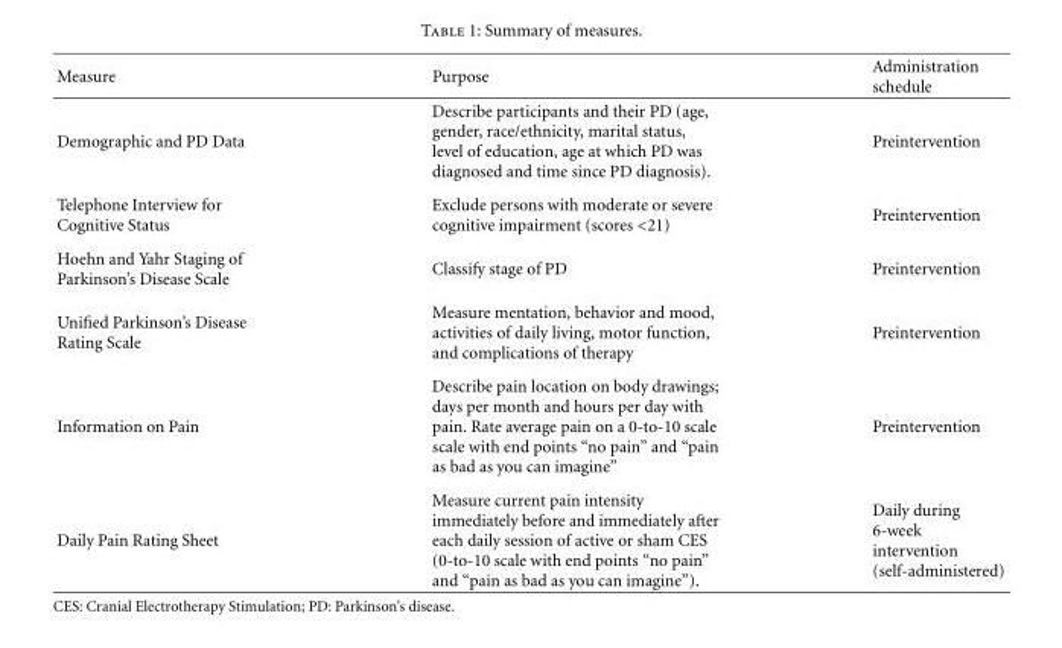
<table><thead><tr><td>Measure</td><td>Purpose</td><td>Administration schedule</td></tr></thead><tbody><tr><td>Demographic and PD Data</td><td>Describe participants and their PD (age, gender, race/ethnicity, marital status, level of education, age at which PD was diagnosed and time since PD diagnosis).</td><td>Preintervention</td></tr><tr><td>Telephone Interview for Cognitive Status</td><td>Exclude persons with moderate or severe cognitive impairment (scores &lt;21)</td><td>Preintervention</td></tr><tr><td>Hoehn and Yahr Staging of Parkinson’s Disease Scale</td><td>Classify stage of PD</td><td>Preintervention</td></tr><tr><td>Unified Parkinson’s Disease Rating Scale</td><td>Measure mentation, behavior and mood, activities of daily living, motor function, and complications of therapy</td><td>Preintervention</td></tr><tr><td>Information on Pain</td><td>Describe pain location on body drawings; days per month and hours per day with pain. Rate average pain on a 0-to-10 scale scale with end points “no pain” and “pain as bad as you can imagine”</td><td>Preintervention</td></tr><tr><td>Daily Pain Rating Sheet</td><td>Measure current pain intensity immediately before and immediately after each daily session of active or sham CES (0-to-10 scale with end points “no pain” and “pain as bad as you can imagine”).</td><td>Daily during 6-week intervention (self-administered)</td></tr></tbody></table>